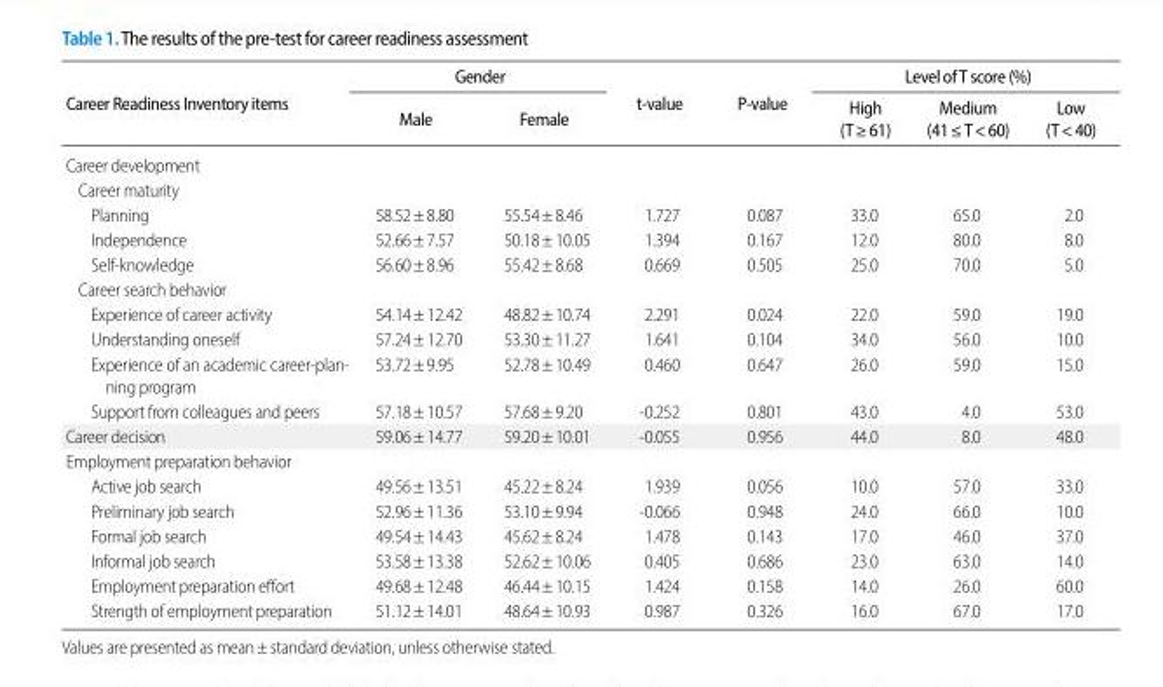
<table><thead><tr><td rowspan="2">Career Readiness Inventory items</td><td colspan="2">Gender</td><td rowspan="2">t-value</td><td rowspan="2">P-value</td><td colspan="3">Level of T score (%)</td></tr><tr><td>Male</td><td>Female</td><td>High (T≥61)</td><td>Medium (41≤T&lt;60)</td><td>Low (T&lt;40)</td></tr></thead><tbody><tr><td colspan="8">Career development</td></tr><tr><td colspan="8">Career maturity</td></tr><tr><td>Planning</td><td>58.52±8.80</td><td>55.54±8.46</td><td>1.727</td><td>0.087</td><td>33.0</td><td>65.0</td><td>2.0</td></tr><tr><td>Independence</td><td>52.66±7.57</td><td>50.18±10.05</td><td>1.394</td><td>0.167</td><td>12.0</td><td>80.0</td><td>8.0</td></tr><tr><td>Self-knowledge</td><td>56.60±8.96</td><td>55.42±8.68</td><td>0.669</td><td>0.505</td><td>25.0</td><td>70.0</td><td>5.0</td></tr><tr><td colspan="8">Career search behavior</td></tr><tr><td>Experience of career activity</td><td>54.14±12.42</td><td>48.82±10.74</td><td>2.291</td><td>0.024</td><td>22.0</td><td>59.0</td><td>19.0</td></tr><tr><td>Understanding oneself</td><td>57.24±12.70</td><td>53.30±11.27</td><td>1.641</td><td>0.104</td><td>34.0</td><td>56.0</td><td>10.0</td></tr><tr><td>Ex perience of an academic career-plan- ning program</td><td>53.72±9.95</td><td>52.78±10.49</td><td>0.460</td><td>0.647</td><td>26.0</td><td>59.0</td><td>15.0</td></tr><tr><td>Support from colleagues and peers</td><td>57.18±10.57</td><td>57.68±9.20</td><td>-0.252</td><td>0.801</td><td>43.0</td><td>4.0</td><td>53.0</td></tr><tr><td>Career decision</td><td>59.06±14.77</td><td>59.20±10.01</td><td>-0.055</td><td>0.956</td><td>44.0</td><td>8.0</td><td>48.0</td></tr><tr><td colspan="8">Employment preparation behavior</td></tr><tr><td>Active job search</td><td>49.56±13.51</td><td>45.22±8.24</td><td>1.939</td><td>0.056</td><td>10.0</td><td>57.0</td><td>33.0</td></tr><tr><td>Preliminary job search</td><td>52.96±11.36</td><td>53.10±9.94</td><td>-0.066</td><td>0.948</td><td>24.0</td><td>66.0</td><td>10.0</td></tr><tr><td>Formal job search</td><td>49.54±14.43</td><td>45.62±8.24</td><td>1.478</td><td>0.143</td><td>17.0</td><td>46.0</td><td>37.0</td></tr><tr><td>Informal job search</td><td>53.58±13.38</td><td>52.62±10.06</td><td>0.405</td><td>0.686</td><td>23.0</td><td>63.0</td><td>14.0</td></tr><tr><td>Employment preparation effort</td><td>49.68±12.48</td><td>46.44±10.15</td><td>1.424</td><td>0.158</td><td>14.0</td><td>26.0</td><td>60.0</td></tr><tr><td>Strength of employment preparation</td><td>51.12±14.01</td><td>48.64±10.93</td><td>0.987</td><td>0.326</td><td>16.0</td><td>67.0</td><td>17.0</td></tr></tbody></table>